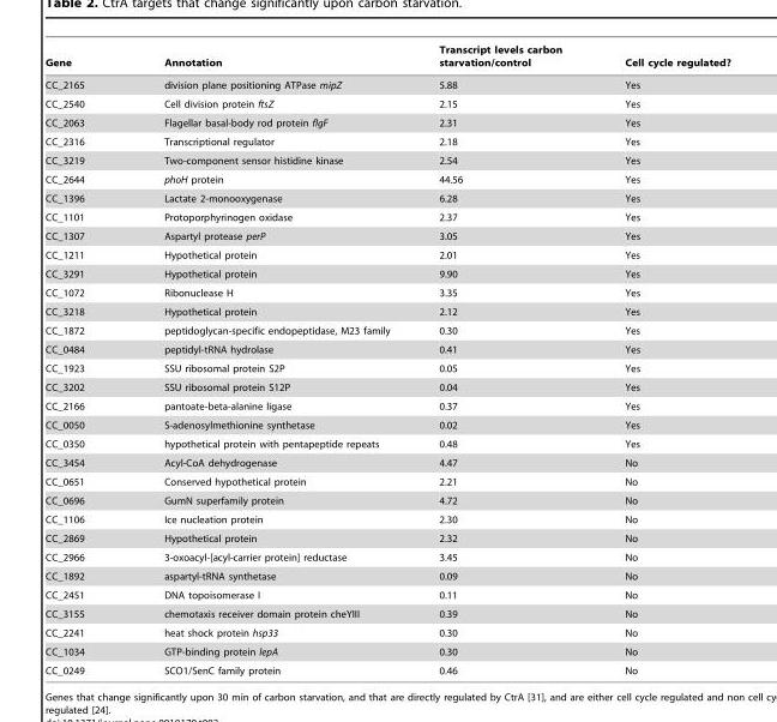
<table><thead><tr><td>Gene</td><td>Annotation</td><td>Transcript levels carbon starvation/control</td><td>Cell cycle regulated?</td></tr></thead><tbody><tr><td>CC_2165</td><td>division plane positioning ATPase mipZ</td><td>5.88</td><td>Yes</td></tr><tr><td>CC_2540</td><td>Cell division protein ftsZ</td><td>2.15</td><td>Yes</td></tr><tr><td>CC_2063</td><td>Flagellar basal-body rod protein flgF</td><td>2.31</td><td>Yes</td></tr><tr><td>CC_2316</td><td>Transcriptional regulator</td><td>2.18</td><td>Yes</td></tr><tr><td>CC_3219</td><td>Two-component sensor histidine kinase</td><td>2.54</td><td>Yes</td></tr><tr><td>CC_2644</td><td>phoH protein</td><td>44.56</td><td>Yes</td></tr><tr><td>CC_1396</td><td>Lactate 2-monooxygenase</td><td>6.28</td><td>Yes</td></tr><tr><td>CC_1101</td><td>Protoporphyrinogen oxidase</td><td>2.37</td><td>Yes</td></tr><tr><td>CC_1307</td><td>Aspartyl protease perP</td><td>3.05</td><td>Yes</td></tr><tr><td>CC_1211</td><td>Hypothetical protein</td><td>2.01</td><td>Yes</td></tr><tr><td>CC_3291</td><td>Hypothetical protein</td><td>9.90</td><td>Yes</td></tr><tr><td>CC_1072</td><td>Ribonuclease H</td><td>3.35</td><td>Yes</td></tr><tr><td>CC_3218</td><td>Hypothetical protein</td><td>2.12</td><td>Yes</td></tr><tr><td>CC_1872</td><td>peptidoglycan-specific endopeptidase, M23 family</td><td>0.30</td><td>Yes</td></tr><tr><td>CC_0484</td><td>peptidyl-tRNA hydrolase</td><td>0.41</td><td>Yes</td></tr><tr><td>CC_1923</td><td>SSU ribosomal protein S2P</td><td>0.05</td><td>Yes</td></tr><tr><td>CC_3202</td><td>SSU ribosomal protein S12P</td><td>0.04</td><td>Yes</td></tr><tr><td>CC_2166</td><td>pantoate-beta-alanine ligase</td><td>0.37</td><td>Yes</td></tr><tr><td>CC_0050</td><td>S-adenosylmethionine synthetase</td><td>0.02</td><td>Yes</td></tr><tr><td>CC_0350</td><td>hypothetical protein with pentapeptide repeats</td><td>0.48</td><td>Yes</td></tr><tr><td>CC_3454</td><td>Acyl-CoA dehydrogenase</td><td>4.47</td><td>No</td></tr><tr><td>CC_0651</td><td>Conserved hypothetical protein</td><td>2.21</td><td>No</td></tr><tr><td>CC_0696</td><td>GumN superfamily protein</td><td>4.72</td><td>No</td></tr><tr><td>CC_1106</td><td>Ice nucleation protein</td><td>2.30</td><td>No</td></tr><tr><td>CC_2869</td><td>Hypothetical protein</td><td>2.32</td><td>No</td></tr><tr><td>CC_2966</td><td>3-oxoacyl-[acyl-carrier protein] reductase</td><td>3.45</td><td>No</td></tr><tr><td>CC_1892</td><td>aspartyl-tRNA synthetase</td><td>0.09</td><td>No</td></tr><tr><td>CC_2451</td><td>DNA topoisomerase I</td><td>0.11</td><td>No</td></tr><tr><td>CC_3155</td><td>chemotaxis receiver domain protein cheYIII</td><td>0.39</td><td>No</td></tr><tr><td>CC_2241</td><td>heat shock protein hsp33</td><td>0.30</td><td>No</td></tr><tr><td>CC_1034</td><td>GTP-binding protein lepA</td><td>0.30</td><td>No</td></tr><tr><td>CC_0249</td><td>SCO1/SenC family protein</td><td>0.46</td><td>No</td></tr></tbody></table>